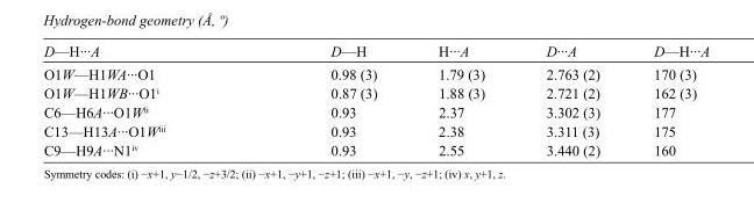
<table><tbody><tr><td>D—H···A</td><td>D—H</td><td>H···A</td><td>D···A</td><td>D—H···A</td></tr><tr><td>O1W—H1WA···O1</td><td>0.98 (3)</td><td>1.79 (3)</td><td>2.763 (2)</td><td>170 (3)</td></tr><tr><td>O1W—H1WB···O1<sup>i</sup></td><td>0.87 (3)</td><td>1.88 (3)</td><td>2.721 (2)</td><td>162 (3)</td></tr><tr><td>C6—H6A···O1W<sup>ii</sup></td><td>0.93</td><td>2.37</td><td>3.302 (3)</td><td>177</td></tr><tr><td>C13—H13A···O1W<sup>iii</sup></td><td>0.93</td><td>2.38</td><td>3.311 (3)</td><td>175</td></tr><tr><td>C9—H9A···N1<sup>iv</sup></td><td>0.93</td><td>2.55</td><td>3.440 (2)</td><td>160</td></tr></tbody></table>